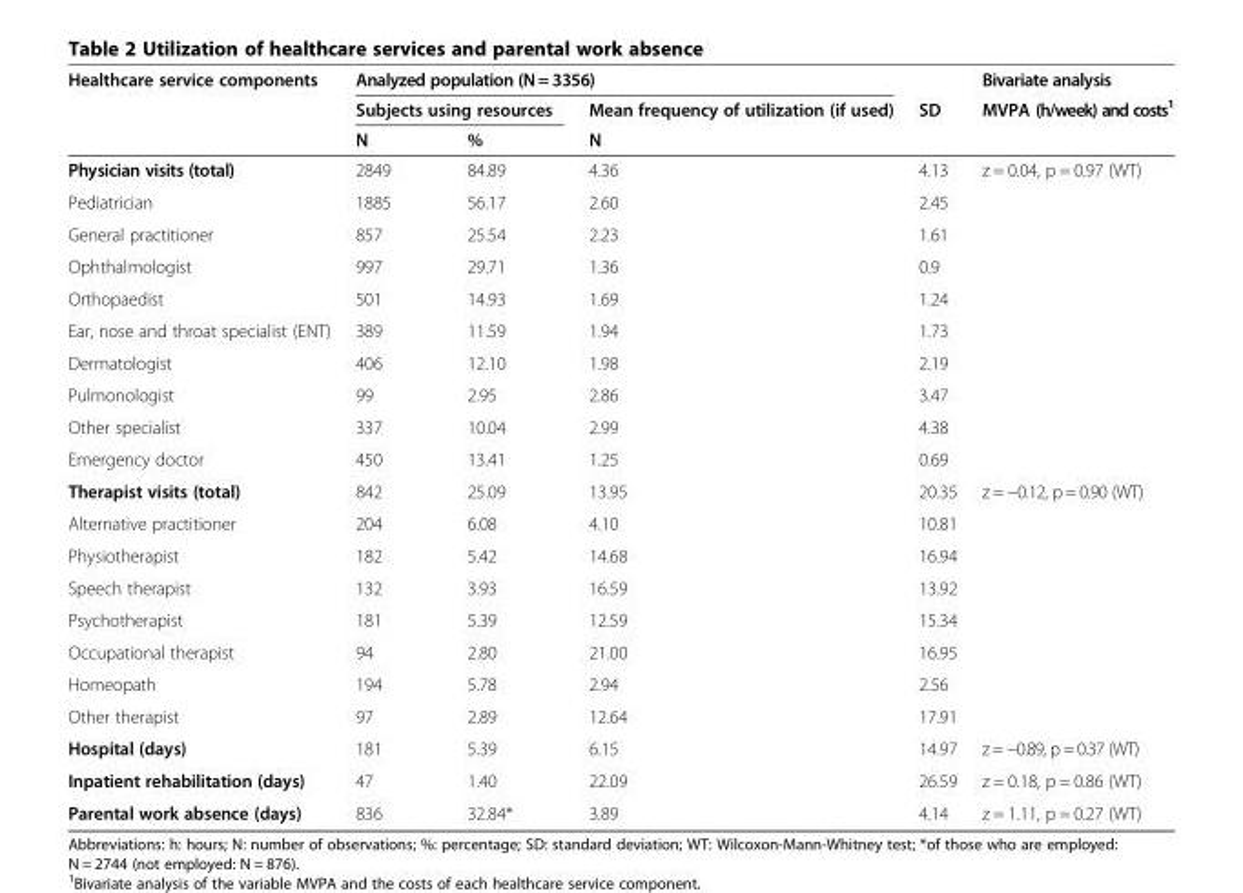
<table><thead><tr><td rowspan="3">Healthcare service components</td><td colspan="3">Analyzed population (N = 3356)</td><td rowspan="3">SD</td><td rowspan="3">Bivariate analysis MVPA (h/week) and costs<sup>1</sup></td></tr><tr><td colspan="2">Subjects using resources</td><td rowspan="2">Mean frequency of utilization (if used) N</td></tr><tr><td>N</td><td>%</td></tr></thead><tbody><tr><td>Physician visits (total)</td><td>2849</td><td>84.89</td><td>4.36</td><td>4.13</td><td>z = 0.04, p = 0.97 (WT)</td></tr><tr><td>Pediatrician</td><td>1885</td><td>56.17</td><td>2.60</td><td>2.45</td><td></td></tr><tr><td>General practitioner</td><td>857</td><td>25.54</td><td>2.23</td><td>1.61</td><td></td></tr><tr><td>Ophthalmologist</td><td>997</td><td>29.71</td><td>1.36</td><td>0.9</td><td></td></tr><tr><td>Orthopaedist</td><td>501</td><td>14.93</td><td>1.69</td><td>1.24</td><td></td></tr><tr><td>Ear, nose and throat specialist (ENT)</td><td>389</td><td>11.59</td><td>1.94</td><td>1.73</td><td></td></tr><tr><td>Dermatologist</td><td>406</td><td>12.10</td><td>1.98</td><td>2.19</td><td></td></tr><tr><td>Pulmonologist</td><td>99</td><td>2.95</td><td>2.86</td><td>3.47</td><td></td></tr><tr><td>Other specialist</td><td>337</td><td>10.04</td><td>2.99</td><td>4.38</td><td></td></tr><tr><td>Emergency doctor</td><td>450</td><td>13.41</td><td>1.25</td><td>0.69</td><td></td></tr><tr><td>Therapist visits (total)</td><td>842</td><td>25.09</td><td>13.95</td><td>20.35</td><td>z = −0.12, p = 0.90 (WT)</td></tr><tr><td>Alternative practitioner</td><td>204</td><td>6.08</td><td>4.10</td><td>10.81</td><td></td></tr><tr><td>Physiotherapist</td><td>182</td><td>5.42</td><td>14.68</td><td>16.94</td><td></td></tr><tr><td>Speech therapist</td><td>132</td><td>3.93</td><td>16.59</td><td>13.92</td><td></td></tr><tr><td>Psychotherapist</td><td>181</td><td>5.39</td><td>12.59</td><td>15.34</td><td></td></tr><tr><td>Occupational therapist</td><td>94</td><td>2.80</td><td>21.00</td><td>16.95</td><td></td></tr><tr><td>Homeopath</td><td>194</td><td>5.78</td><td>2.94</td><td>2.56</td><td></td></tr><tr><td>Other therapist</td><td>97</td><td>2.89</td><td>12.64</td><td>17.91</td><td></td></tr><tr><td>Hospital (days)</td><td>181</td><td>5.39</td><td>6.15</td><td>14.97</td><td>z = −0.89, p = 0.37 (WT)</td></tr><tr><td>Inpatient rehabilitation (days)</td><td>47</td><td>1.40</td><td>22.09</td><td>26.59</td><td>z = 0.18, p = 0.86 (WT)</td></tr><tr><td>Parental work absence (days)</td><td>836</td><td>32.84*</td><td>3.89</td><td>4.14</td><td>z = 1.11, p = 0.27 (WT)</td></tr></tbody></table>